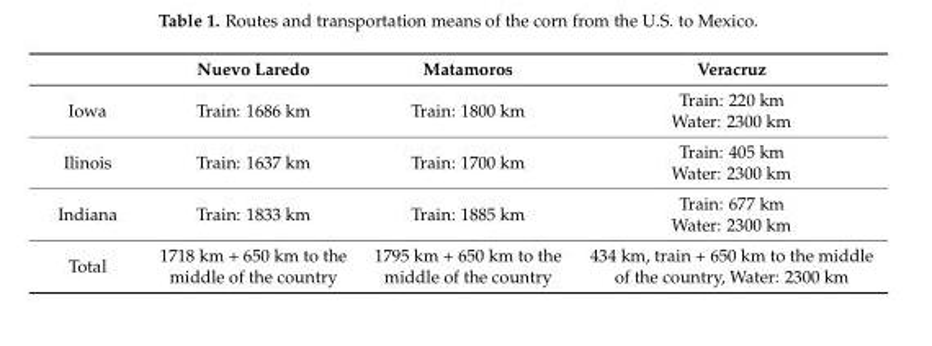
<table><thead><tr><td></td><td>Nuevo Laredo</td><td>Matamoros</td><td>Veracruz</td></tr></thead><tbody><tr><td>Iowa</td><td>Train: 1686 km</td><td>Train: 1800 km</td><td>Train: 220 km Water: 2300 km</td></tr><tr><td>Ilinois</td><td>Train: 1637 km</td><td>Train: 1700 km</td><td>Train: 405 km Water: 2300 km</td></tr><tr><td>Indiana</td><td>Train: 1833 km</td><td>Train: 1885 km</td><td>Train: 677 km Water: 2300 km</td></tr><tr><td>Total</td><td>1718 km + 650 km to the middle of the country</td><td>1795 km + 650 km to the middle of the country</td><td>434 km, train + 650 km to the middle of the country, Water: 2300 km</td></tr></tbody></table>